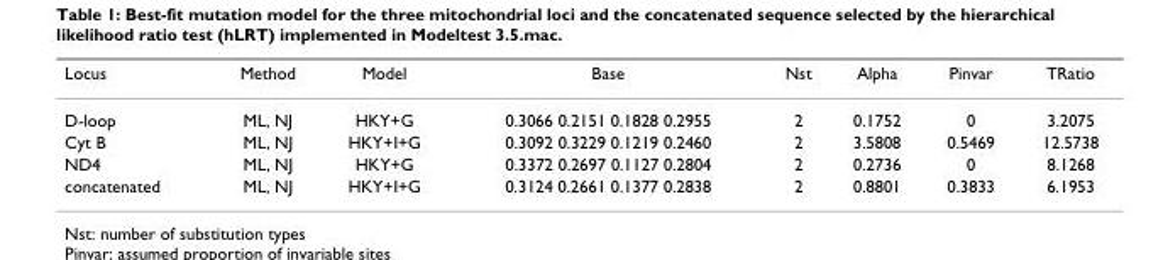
<table><thead><tr><td>Locus</td><td>Method</td><td>Model</td><td>Base</td><td>Nst</td><td>Alpha</td><td>Pinvar</td><td>TRatio</td></tr></thead><tbody><tr><td>D-loop</td><td>ML, NJ</td><td>HKY+G</td><td>0.3066 0.2151 0.1828 0.2955</td><td>2</td><td>0.1752</td><td>0</td><td>3.2075</td></tr><tr><td>Cyt B</td><td>ML, NJ</td><td>HKY+I+G</td><td>0.3092 0.3229 0.1219 0.2460</td><td>2</td><td>3.5808</td><td>0.5469</td><td>12.5738</td></tr><tr><td>ND4</td><td>ML, NJ</td><td>HKY+G</td><td>0.3372 0.2697 0.1127 0.2804</td><td>2</td><td>0.2736</td><td>0</td><td>8.1268</td></tr><tr><td>concatenated</td><td>ML, NJ</td><td>HKY+I+G</td><td>0.3124 0.2661 0.1377 0.2838</td><td>2</td><td>0.8801</td><td>0.3833</td><td>6.1953</td></tr></tbody></table>